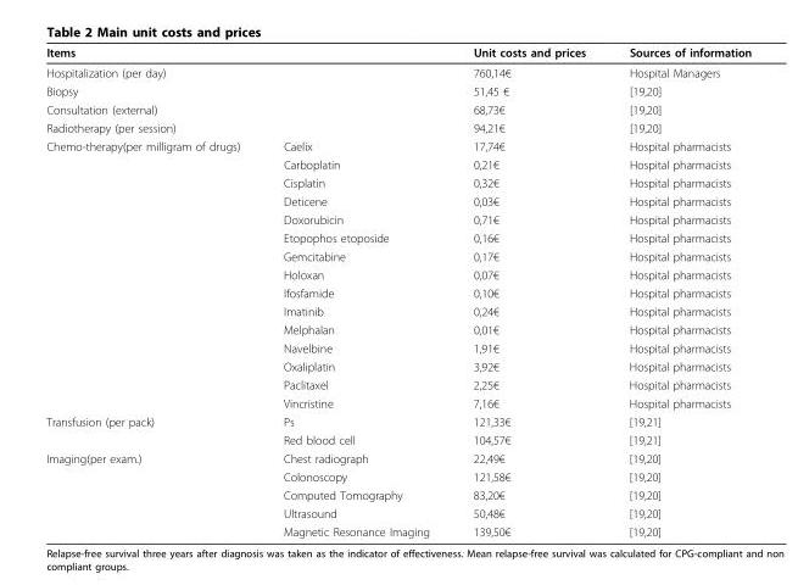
<table><thead><tr><td colspan="2">Items</td><td>Unit costs and prices</td><td>Sources of information</td></tr></thead><tbody><tr><td colspan="2">Hospitalization (per day)</td><td>760,14€</td><td>Hospital Managers</td></tr><tr><td colspan="2">Biopsy</td><td>51,45 €</td><td>[19,20]</td></tr><tr><td colspan="2">Consultation (external)</td><td>68,73€</td><td>[19,20]</td></tr><tr><td colspan="2">Radiotherapy (per session)</td><td>94,21€</td><td>[19,20]</td></tr><tr><td rowspan="15">Chemo-therapy(per milligram of drugs)</td><td>Caelix</td><td>17,74€</td><td>Hospital pharmacists</td></tr><tr><td>Carboplatin</td><td>0,21€</td><td>Hospital pharmacists</td></tr><tr><td>Cisplatin</td><td>0,32€</td><td>Hospital pharmacists</td></tr><tr><td>Deticene</td><td>0,03€</td><td>Hospital pharmacists</td></tr><tr><td>Doxorubicin</td><td>0,71€</td><td>Hospital pharmacists</td></tr><tr><td>Etopophos etoposide</td><td>0,16€</td><td>Hospital pharmacists</td></tr><tr><td>Gemcitabine</td><td>0,17€</td><td>Hospital pharmacists</td></tr><tr><td>Holoxan</td><td>0,07€</td><td>Hospital pharmacists</td></tr><tr><td>Ifosfamide</td><td>0,10€</td><td>Hospital pharmacists</td></tr><tr><td>Imatinib</td><td>0,24€</td><td>Hospital pharmacists</td></tr><tr><td>Melphalan</td><td>0,01€</td><td>Hospital pharmacists</td></tr><tr><td>Navelbine</td><td>1,91€</td><td>Hospital pharmacists</td></tr><tr><td>Oxaliplatin</td><td>3,92€</td><td>Hospital pharmacists</td></tr><tr><td>Paclitaxel</td><td>2,25€</td><td>Hospital pharmacists</td></tr><tr><td>Vincristine</td><td>7,16€</td><td>Hospital pharmacists</td></tr><tr><td rowspan="2">Transfusion (per pack)</td><td>Ps</td><td>121,33€</td><td>[19,21]</td></tr><tr><td>Red blood cell</td><td>104,57€</td><td>[19,21]</td></tr><tr><td rowspan="5">Imaging(per exam.)</td><td>Chest radiograph</td><td>22,49€</td><td>[19,20]</td></tr><tr><td>Colonoscopy</td><td>121,58€</td><td>[19,20]</td></tr><tr><td>Computed Tomography</td><td>83,20€</td><td>[19,20]</td></tr><tr><td>Ultrasound</td><td>50,48€</td><td>[19,20]</td></tr><tr><td>Magnetic Resonance Imaging</td><td>139,50€</td><td>[19,20]</td></tr></tbody></table>